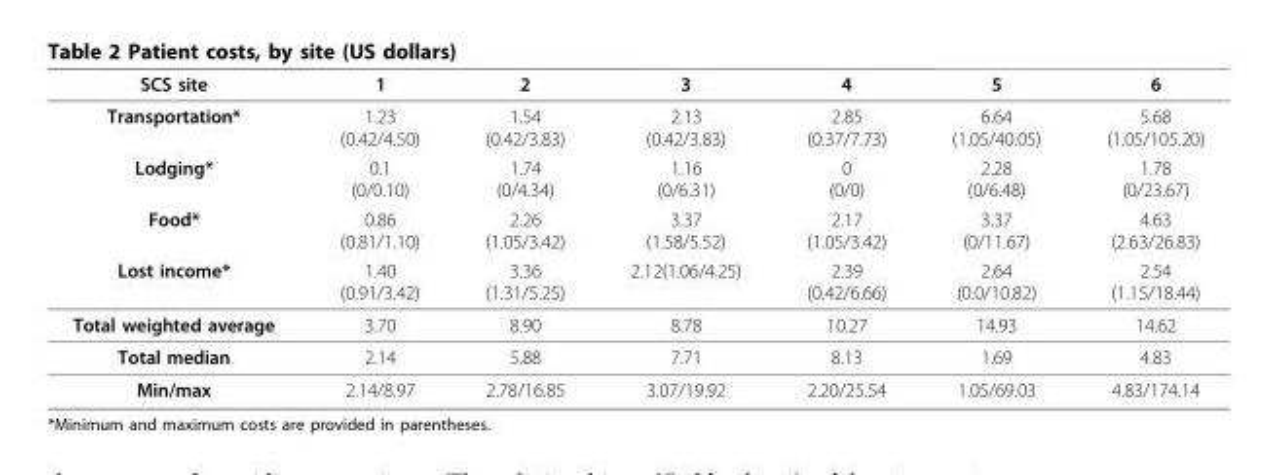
<table><thead><tr><td>SCS site</td><td>1</td><td>2</td><td>3</td><td>4</td><td>5</td><td>6</td></tr></thead><tbody><tr><td>Transportation*</td><td>1.23 (0.42/4.50)</td><td>1.54 (0.42/3.83)</td><td>2.13 (0.42/3.83)</td><td>2.85 (0.37/7.73)</td><td>6.64 (1.05/40.05)</td><td>5.68 (1.05/105.20)</td></tr><tr><td>Lodging*</td><td>0.1 (0/0.10)</td><td>1.74 (0/4.34)</td><td>1.16 (0/6.31)</td><td>0 (0/0)</td><td>2.28 (0/6.48)</td><td>1.78 (0/23.67)</td></tr><tr><td>Food*</td><td>0.86 (0.81/1.10)</td><td>2.26 (1.05/3.42)</td><td>3.37 (1.58/5.52)</td><td>2.17 (1.05/3.42)</td><td>3.37 (0/11.67)</td><td>4.63 (2.63/26.83)</td></tr><tr><td>Lost income*</td><td>1.40 (0.91/3.42)</td><td>3.36 (1.31/5.25)</td><td>2.12(1.06/4.25)</td><td>2.39 (0.42/6.66)</td><td>2.64 (0.0/10.82)</td><td>2.54 (1.15/18.44)</td></tr><tr><td>Total weighted average</td><td>3.70</td><td>8.90</td><td>8.78</td><td>10.27</td><td>14.93</td><td>14.62</td></tr><tr><td>Total median</td><td>2.14</td><td>5.88</td><td>7.71</td><td>8.13</td><td>1.69</td><td>4.83</td></tr><tr><td>Min/max</td><td>2.14/8.97</td><td>2.78/16.85</td><td>3.07/19.92</td><td>2.20/25.54</td><td>1.05/69.03</td><td>4.83/174.14</td></tr></tbody></table>